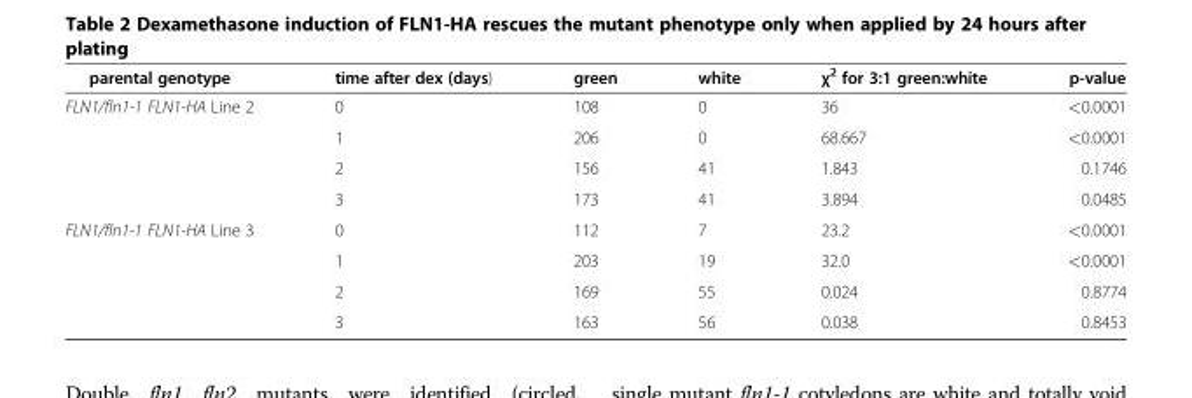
<table><thead><tr><td>parental genotype</td><td>time after dex (days)</td><td>green</td><td>white</td><td>χ<sup>2</sup> for 3:1 green:white</td><td>p-value</td></tr></thead><tbody><tr><td rowspan="4">FLN1/fln1-1 FLN1-HA Line 2</td><td>0</td><td>108</td><td>0</td><td>36</td><td>&lt;0.0001</td></tr><tr><td>1</td><td>206</td><td>0</td><td>68.667</td><td>&lt;0.0001</td></tr><tr><td>2</td><td>156</td><td>41</td><td>1.843</td><td>0.1746</td></tr><tr><td>3</td><td>173</td><td>41</td><td>3.894</td><td>0.0485</td></tr><tr><td rowspan="4">FLN1/fln1-1 FLN1-HA Line 3</td><td>0</td><td>112</td><td>7</td><td>23.2</td><td>&lt;0.0001</td></tr><tr><td>1</td><td>203</td><td>19</td><td>32.0</td><td>&lt;0.0001</td></tr><tr><td>2</td><td>169</td><td>55</td><td>0.024</td><td>0.8774</td></tr><tr><td>3</td><td>163</td><td>56</td><td>0.038</td><td>0.8453</td></tr></tbody></table>